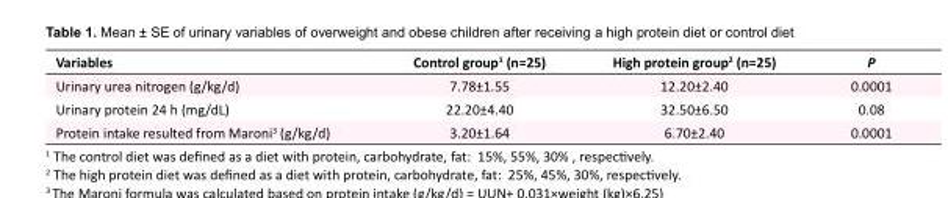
<table><tbody><tr><td>Variables</td><td>Control group<sup>1</sup> (n=25)</td><td>High protein group<sup>2</sup> (n=25)</td><td>P</td></tr><tr><td>Urinary urea nitrogen (g/kg/d)</td><td>7.78±1.55</td><td>12.20±2.40</td><td>0.0001</td></tr><tr><td>Urinary protein 24 h (mg/dL)</td><td>22.20±4.40</td><td>32.50±6.50</td><td>0.08</td></tr><tr><td>Protein intake resulted from Maroni<sup>3</sup> (g/kg/d)</td><td>3.20±1.64</td><td>6.70±2.40</td><td>0.0001</td></tr></tbody></table>